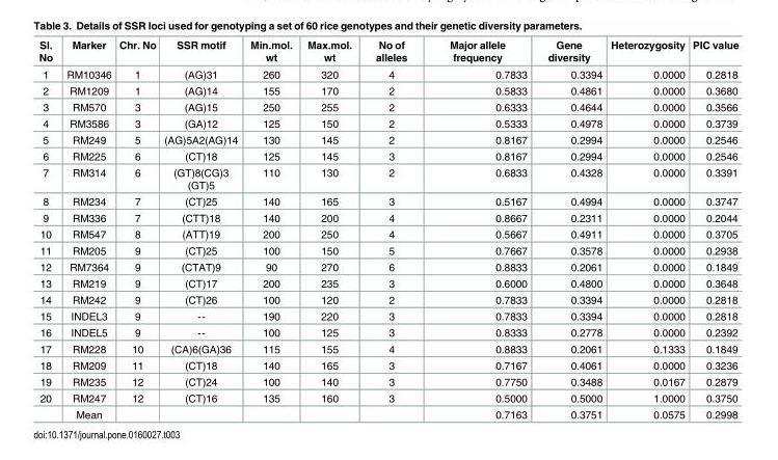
<table><thead><tr><td>Sl. No</td><td>Marker</td><td>Chr. No</td><td>SSR motif</td><td>Min.mol. wt</td><td>Max.mol. wt</td><td>No of alleles</td><td>Major allele frequency</td><td>Gene diversity</td><td>Heterozygosity</td><td>PIC value</td></tr></thead><tbody><tr><td>1</td><td>RM10346</td><td>1</td><td>(AG)31</td><td>260</td><td>320</td><td>4</td><td>0.7833</td><td>0.3394</td><td>0.0000</td><td>0.2818</td></tr><tr><td>2</td><td>RM1209</td><td>1</td><td>(AG)14</td><td>155</td><td>170</td><td>2</td><td>0.5833</td><td>0.4861</td><td>0.0000</td><td>0.3680</td></tr><tr><td>3</td><td>RM570</td><td>3</td><td>(AG)15</td><td>250</td><td>255</td><td>2</td><td>0.6333</td><td>0.4644</td><td>0.0000</td><td>0.3566</td></tr><tr><td>4</td><td>RM3586</td><td>3</td><td>(GA)12</td><td>125</td><td>150</td><td>2</td><td>0.5333</td><td>0.4978</td><td>0.0000</td><td>0.3739</td></tr><tr><td>5</td><td>RM249</td><td>5</td><td>(AG)5A2(AG)14</td><td>130</td><td>145</td><td>2</td><td>0.8167</td><td>0.2994</td><td>0.0000</td><td>0.2546</td></tr><tr><td>6</td><td>RM225</td><td>6</td><td>(CT)18</td><td>125</td><td>145</td><td>3</td><td>0.8167</td><td>0.2994</td><td>0.0000</td><td>0.2546</td></tr><tr><td>7</td><td>RM314</td><td>6</td><td>(GT)8(CG)3 (GT)5</td><td>110</td><td>130</td><td>2</td><td>0.6833</td><td>0.4328</td><td>0.0000</td><td>0.3391</td></tr><tr><td>8</td><td>RM234</td><td>7</td><td>(CT)25</td><td>140</td><td>165</td><td>3</td><td>0.5167</td><td>0.4994</td><td>0.0000</td><td>0.3747</td></tr><tr><td>9</td><td>RM336</td><td>7</td><td>(CTT)18</td><td>140</td><td>200</td><td>4</td><td>0.8667</td><td>0.2311</td><td>0.0000</td><td>0.2044</td></tr><tr><td>10</td><td>RM547</td><td>8</td><td>(ATT)19</td><td>200</td><td>250</td><td>4</td><td>0.5667</td><td>0.4911</td><td>0.0000</td><td>0.3705</td></tr><tr><td>11</td><td>RM205</td><td>9</td><td>(CT)25</td><td>100</td><td>150</td><td>5</td><td>0.7667</td><td>0.3578</td><td>0.0000</td><td>0.2938</td></tr><tr><td>12</td><td>RM7364</td><td>9</td><td>(CTAT)9</td><td>90</td><td>270</td><td>6</td><td>0.8833</td><td>0.2061</td><td>0.0000</td><td>0.1849</td></tr><tr><td>13</td><td>RM219</td><td>9</td><td>(CT)17</td><td>200</td><td>235</td><td>3</td><td>0.6000</td><td>0.4800</td><td>0.0000</td><td>0.3648</td></tr><tr><td>14</td><td>RM242</td><td>9</td><td>(CT)26</td><td>100</td><td>120</td><td>2</td><td>0.7833</td><td>0.3394</td><td>0.0000</td><td>0.2818</td></tr><tr><td>15</td><td>INDEL3</td><td>9</td><td>--</td><td>190</td><td>220</td><td>3</td><td>0.7833</td><td>0.3394</td><td>0.0000</td><td>0.2818</td></tr><tr><td>16</td><td>INDEL5</td><td>9</td><td>--</td><td>100</td><td>125</td><td>3</td><td>0.8333</td><td>0.2778</td><td>0.0000</td><td>0.2392</td></tr><tr><td>17</td><td>RM228</td><td>10</td><td>(CA)6(GA)36</td><td>115</td><td>155</td><td>4</td><td>0.8833</td><td>0.2061</td><td>0.1333</td><td>0.1849</td></tr><tr><td>18</td><td>RM209</td><td>11</td><td>(CT)18</td><td>140</td><td>165</td><td>3</td><td>0.7167</td><td>0.4061</td><td>0.0000</td><td>0.3236</td></tr><tr><td>19</td><td>RM235</td><td>12</td><td>(CT)24</td><td>100</td><td>140</td><td>3</td><td>0.7750</td><td>0.3488</td><td>0.0167</td><td>0.2879</td></tr><tr><td rowspan="2">20</td><td>RM247</td><td>12</td><td>(CT)16</td><td>135</td><td>160</td><td>3</td><td>0.5000</td><td>0.5000</td><td>1.0000</td><td>0.3750</td></tr><tr><td>Mean</td><td></td><td></td><td></td><td></td><td></td><td>0.7163</td><td>0.3751</td><td>0.0575</td><td>0.2998</td></tr></tbody></table>